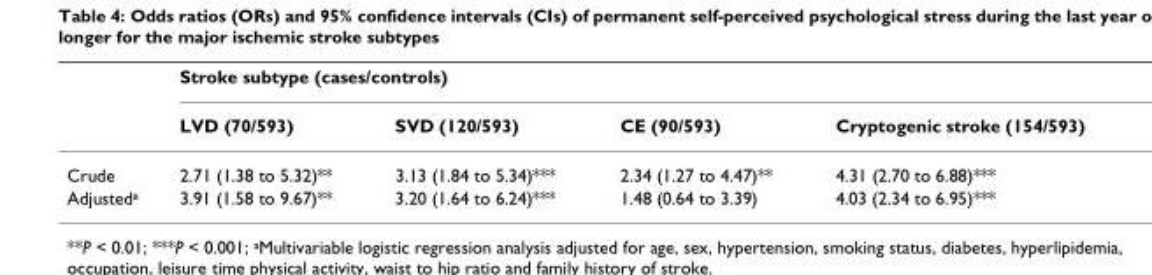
<table><thead><tr><td rowspan="2"></td><td colspan="4">Stroke subtype (cases/controls)</td></tr><tr><td>LVD (70/593)</td><td>SVD (120/593)</td><td>CE (90/593)</td><td>Cryptogenic stroke (154/593)</td></tr></thead><tbody><tr><td>Crude</td><td>2.71 (1.38 to 5.32)**</td><td>3.13 (1.84 to 5.34)***</td><td>2.34 (1.27 to 4.47)**</td><td>4.31 (2.70 to 6.88)***</td></tr><tr><td>Adjusted<sup>a</sup></td><td>3.91 (1.58 to 9.67)**</td><td>3.20 (1.64 to 6.24)***</td><td>1.48 (0.64 to 3.39)</td><td>4.03 (2.34 to 6.95)***</td></tr></tbody></table>